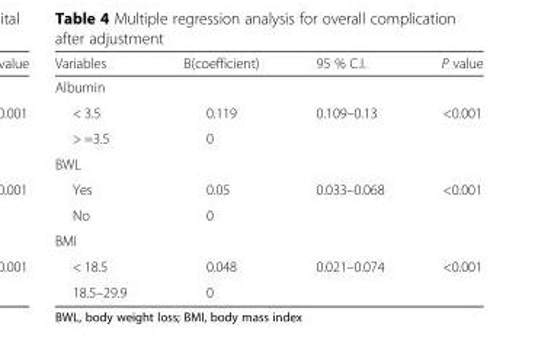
<table><thead><tr><td>Variables</td><td>B(coefficient)</td><td>95 % C.I.</td><td>P value</td></tr></thead><tbody><tr><td colspan="4">Albumin</td></tr><tr><td>&lt; 3.5</td><td>0.119</td><td>0.109–0.13</td><td>&lt;0.001</td></tr><tr><td>&gt; =3.5</td><td>0</td><td></td><td></td></tr><tr><td colspan="4">BWL</td></tr><tr><td>Yes</td><td>0.05</td><td>0.033–0.068</td><td>&lt;0.001</td></tr><tr><td>No</td><td>0</td><td></td><td></td></tr><tr><td colspan="4">BMI</td></tr><tr><td>&lt; 18.5</td><td>0.048</td><td>0.021–0.074</td><td>&lt;0.001</td></tr><tr><td>18.5–29.9</td><td>0</td><td></td><td></td></tr></tbody></table>